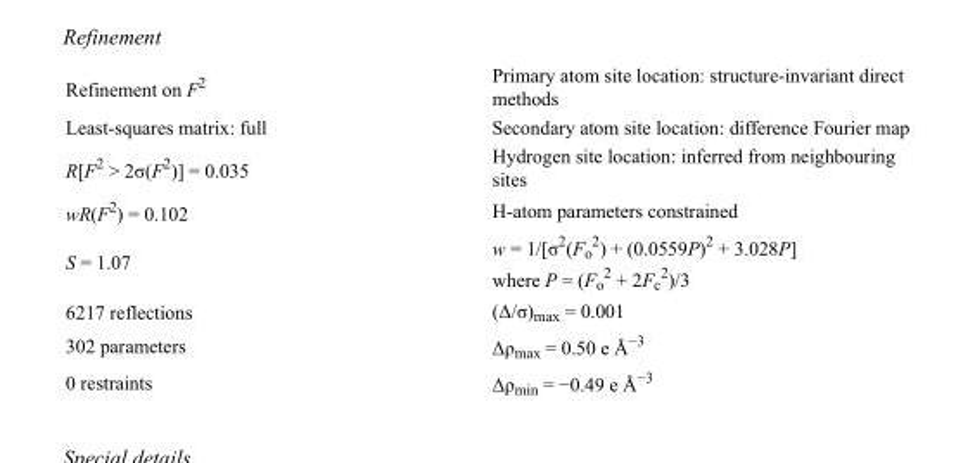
<table><tbody><tr><td>Refinement on F<sup>2</sup></td><td>Primary atom site location: structure-invariant direct methods</td></tr><tr><td>Least-squares matrix: full</td><td>Secondary atom site location: difference Fourier map</td></tr><tr><td>R[F<sup>2</sup> &gt; 2σ(F<sup>2</sup>)] = 0.035</td><td>Hydrogen site location: inferred from neighbouring sites</td></tr><tr><td>wR(F<sup>2</sup>) = 0.102</td><td>H-atom parameters constrained</td></tr><tr><td>S = 1.07</td><td>w = 1/[σ<sup>2</sup>(F<sub>o</sub> <sup>2</sup>) + (0.0559P)<sup>2</sup> + 3.028P] where P = (F<sub>o</sub> <sup>2</sup> + 2F<sub>c</sub> <sup>2</sup>)/3</td></tr><tr><td>6217 reflections</td><td>(Δ/σ)<sub>max</sub> = 0.001</td></tr><tr><td>302 parameters</td><td>Δρ<sub>max</sub> = 0.50 e Å<sup>−3</sup></td></tr><tr><td>0 restraints</td><td>Δρ<sub>min</sub> = −0.49 e Å<sup>−3</sup></td></tr></tbody></table>